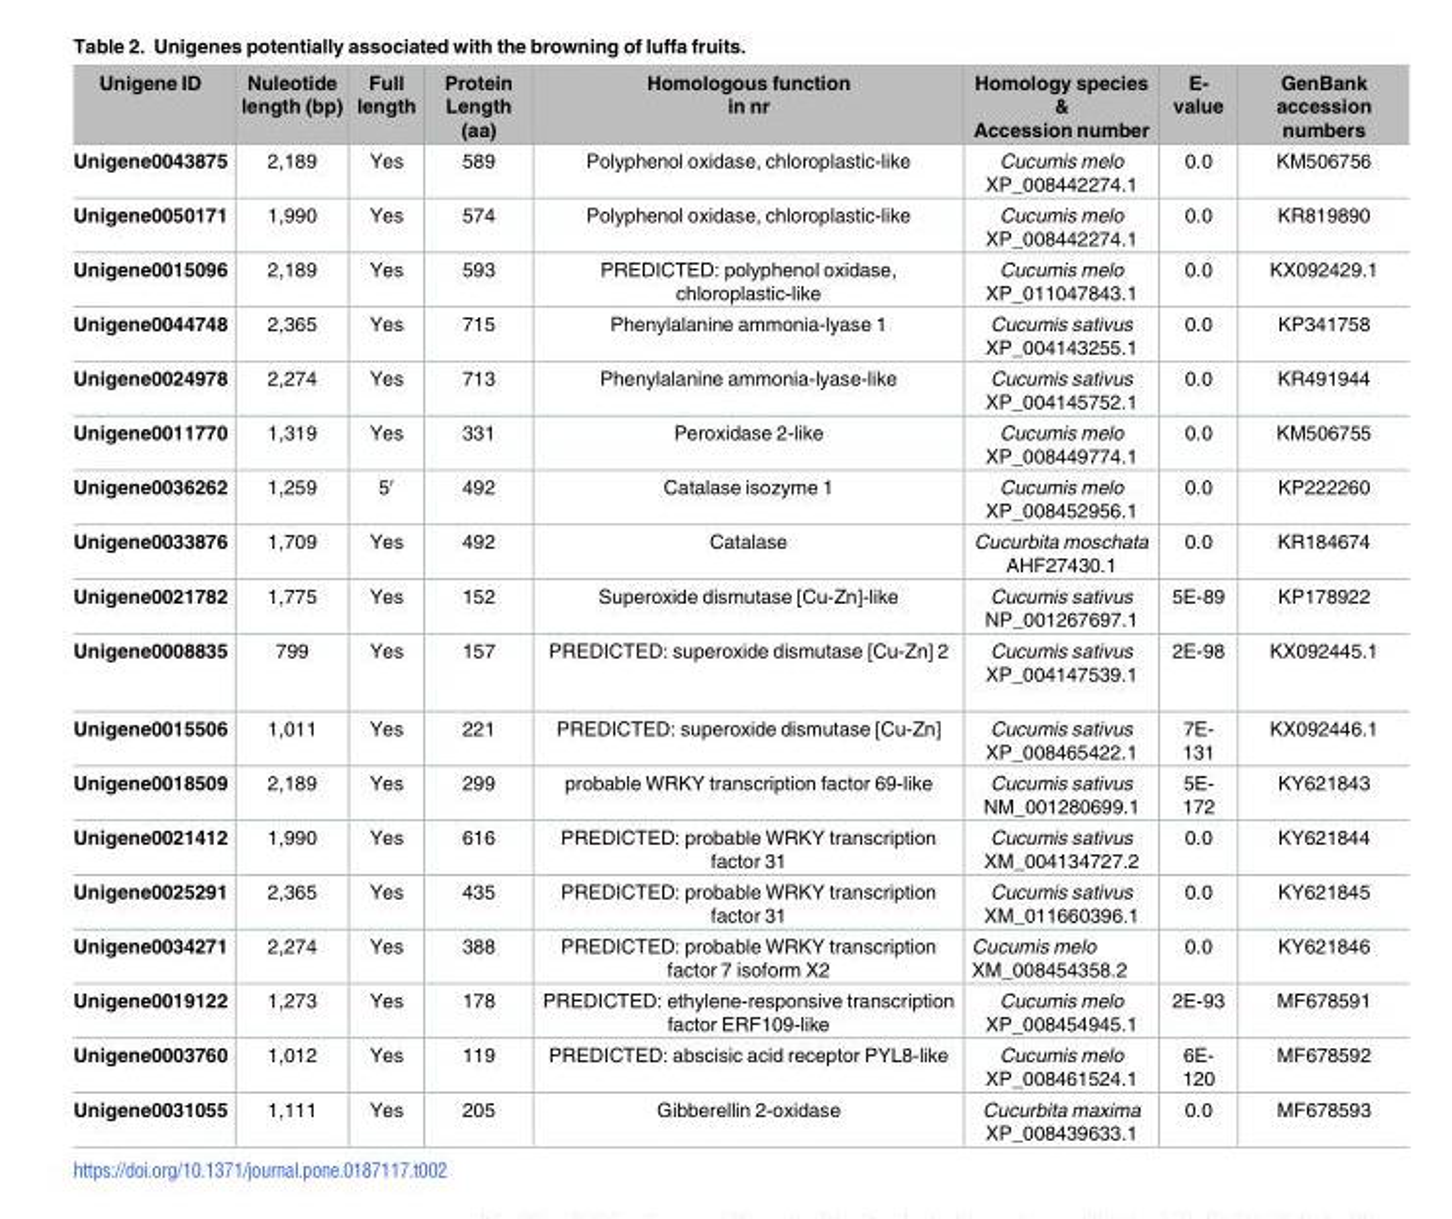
<table><thead><tr><td>Unigene ID</td><td>Nuleotide length (bp)</td><td>Full length</td><td>Protein Length (aa)</td><td>Homologous function in nr</td><td>Homology species &amp; Accession number</td><td>E- value</td><td>GenBank accession numbers</td></tr></thead><tbody><tr><td>Unigene0043875</td><td>2,189</td><td>Yes</td><td>589</td><td>Polyphenol oxidase, chloroplastic-like</td><td>Cucumis melo XP_008442274.1</td><td>0.0</td><td>KM506756</td></tr><tr><td>Unigene0050171</td><td>1,990</td><td>Yes</td><td>574</td><td>Polyphenol oxidase, chloroplastic-like</td><td>Cucumis melo XP_008442274.1</td><td>0.0</td><td>KR819890</td></tr><tr><td>Unigene0015096</td><td>2,189</td><td>Yes</td><td>593</td><td>PREDICTED: polyphenol oxidase, chloroplastic-like</td><td>Cucumis melo XP_011047843.1</td><td>0.0</td><td>KX092429.1</td></tr><tr><td>Unigene0044748</td><td>2,365</td><td>Yes</td><td>715</td><td>Phenylalanine ammonia-lyase 1</td><td>Cucumis sativus XP_004143255.1</td><td>0.0</td><td>KP341758</td></tr><tr><td>Unigene0024978</td><td>2,274</td><td>Yes</td><td>713</td><td>Phenylalanine ammonia-lyase-like</td><td>Cucumis sativus XP_004145752.1</td><td>0.0</td><td>KR491944</td></tr><tr><td>Unigene0011770</td><td>1,319</td><td>Yes</td><td>331</td><td>Peroxidase 2-like</td><td>Cucumis melo XP_008449774.1</td><td>0.0</td><td>KM506755</td></tr><tr><td>Unigene0036262</td><td>1,259</td><td>5′</td><td>492</td><td>Catalase isozyme 1</td><td>Cucumis melo XP_008452956.1</td><td>0.0</td><td>KP222260</td></tr><tr><td>Unigene0033876</td><td>1,709</td><td>Yes</td><td>492</td><td>Catalase</td><td>Cucurbita moschata AHF27430.1</td><td>0.0</td><td>KR184674</td></tr><tr><td>Unigene0021782</td><td>1,775</td><td>Yes</td><td>152</td><td>Superoxide dismutase [Cu-Zn]-like</td><td>Cucumis sativus NP_001267697.1</td><td>5E-89</td><td>KP178922</td></tr><tr><td>Unigene0008835</td><td>799</td><td>Yes</td><td>157</td><td>PREDICTED: superoxide dismutase [Cu-Zn] 2</td><td>Cucumis sativus XP_004147539.1</td><td>2E-98</td><td>KX092445.1</td></tr><tr><td>Unigene0015506</td><td>1,011</td><td>Yes</td><td>221</td><td>PREDICTED: superoxide dismutase [Cu-Zn]</td><td>Cucumis sativus XP_008465422.1</td><td>7E- 131</td><td>KX092446.1</td></tr><tr><td>Unigene0018509</td><td>2,189</td><td>Yes</td><td>299</td><td>probable WRKY transcription factor 69-like</td><td>Cucumis sativus NM_001280699.1</td><td>5E- 172</td><td>KY621843</td></tr><tr><td>Unigene0021412</td><td>1,990</td><td>Yes</td><td>616</td><td>PREDICTED: probable WRKY transcription factor 31</td><td>Cucumis sativus XM_004134727.2</td><td>0.0</td><td>KY621844</td></tr><tr><td>Unigene0025291</td><td>2,365</td><td>Yes</td><td>435</td><td>PREDICTED: probable WRKY transcription factor 31</td><td>Cucumis sativus XM_011660396.1</td><td>0.0</td><td>KY621845</td></tr><tr><td>Unigene0034271</td><td>2,274</td><td>Yes</td><td>388</td><td>PREDICTED: probable WRKY transcription factor 7 isoform X2</td><td>Cucumis melo XM_008454358.2</td><td>0.0</td><td>KY621846</td></tr><tr><td>Unigene0019122</td><td>1,273</td><td>Yes</td><td>178</td><td>PREDICTED: ethylene-responsive transcription factor ERF109-like</td><td>Cucumis melo XP_008454945.1</td><td>2E-93</td><td>MF678591</td></tr><tr><td>Unigene0003760</td><td>1,012</td><td>Yes</td><td>119</td><td>PREDICTED: abscisic acid receptor PYL8-like</td><td>Cucumis melo XP_008461524.1</td><td>6E- 120</td><td>MF678592</td></tr><tr><td>Unigene0031055</td><td>1,111</td><td>Yes</td><td>205</td><td>Gibberellin 2-oxidase</td><td>Cucurbita maxima XP_008439633.1</td><td>0.0</td><td>MF678593</td></tr></tbody></table>